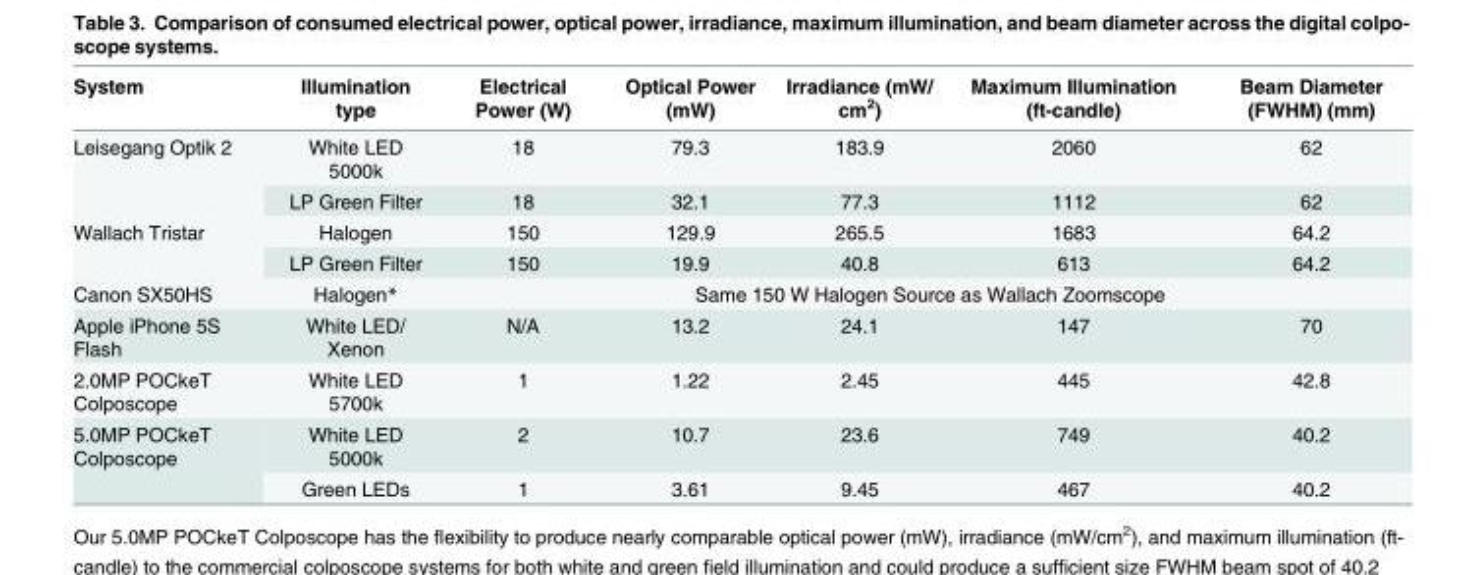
<table><thead><tr><td>System</td><td>Illumination type</td><td>Electrical Power (W)</td><td>Optical Power (mW)</td><td>Irradiance (mW/ cm<sup>2</sup>)</td><td>Maximum Illumination (ft-candle)</td><td>Beam Diameter (FWHM) (mm)</td></tr></thead><tbody><tr><td rowspan="2">Leisegang Optik 2</td><td>White LED 5000k</td><td>18</td><td>79.3</td><td>183.9</td><td>2060</td><td>62</td></tr><tr><td>LP Green Filter</td><td>18</td><td>32.1</td><td>77.3</td><td>1112</td><td>62</td></tr><tr><td rowspan="2">Wallach Tristar</td><td>Halogen</td><td>150</td><td>129.9</td><td>265.5</td><td>1683</td><td>64.2</td></tr><tr><td>LP Green Filter</td><td>150</td><td>19.9</td><td>40.8</td><td>613</td><td>64.2</td></tr><tr><td>Canon SX50HS</td><td>Halogen*</td><td colspan="5">Same 150 W Halogen Source as Wallach Zoomscope</td></tr><tr><td>Apple iPhone 5S Flash</td><td>White LED/ Xenon</td><td>N/A</td><td>13.2</td><td>24.1</td><td>147</td><td>70</td></tr><tr><td>2.0MP POCkeT Colposcope</td><td>White LED 5700k</td><td>1</td><td>1.22</td><td>2.45</td><td>445</td><td>42.8</td></tr><tr><td rowspan="2">5.0MP POCkeT Colposcope</td><td>White LED 5000k</td><td>2</td><td>10.7</td><td>23.6</td><td>749</td><td>40.2</td></tr><tr><td>Green LEDs</td><td>1</td><td>3.61</td><td>9.45</td><td>467</td><td>40.2</td></tr></tbody></table>